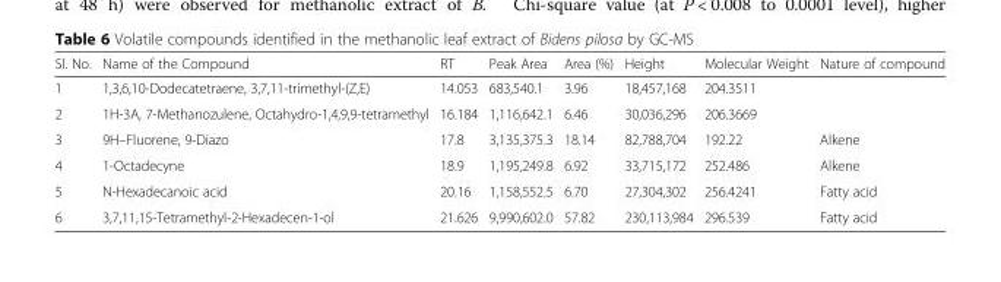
<table><thead><tr><td>Sl. No.</td><td>Name of the Compound</td><td>RT</td><td>Peak Area</td><td>Area (%)</td><td>Height</td><td>Molecular Weight</td><td>Nature of compound</td></tr></thead><tbody><tr><td>1</td><td>1,3,6,10-Dodecatetraene, 3,7,11-trimethyl-(Z,E)</td><td>14.053</td><td>683,540.1</td><td>3.96</td><td>18,457,168</td><td>204.3511</td><td></td></tr><tr><td>2</td><td>1H-3A, 7-Methanozulene, Octahydro-1,4,9,9-tetramethyl</td><td>16.184</td><td>1,116,642.1</td><td>6.46</td><td>30,036,296</td><td>206.3669</td><td></td></tr><tr><td>3</td><td>9H–Fluorene, 9-Diazo</td><td>17.8</td><td>3,135,375.3</td><td>18.14</td><td>82,788,704</td><td>192.22</td><td>Alkene</td></tr><tr><td>4</td><td>1-Octadecyne</td><td>18.9</td><td>1,195,249.8</td><td>6.92</td><td>33,715,172</td><td>252.486</td><td>Alkene</td></tr><tr><td>5</td><td>N-Hexadecanoic acid</td><td>20.16</td><td>1,158,552.5</td><td>6.70</td><td>27,304,302</td><td>256.4241</td><td>Fatty acid</td></tr><tr><td>6</td><td>3,7,11,15-Tetramethyl-2-Hexadecen-1-ol</td><td>21.626</td><td>9,990,602.0</td><td>57.82</td><td>230,113,984</td><td>296.539</td><td>Fatty acid</td></tr></tbody></table>